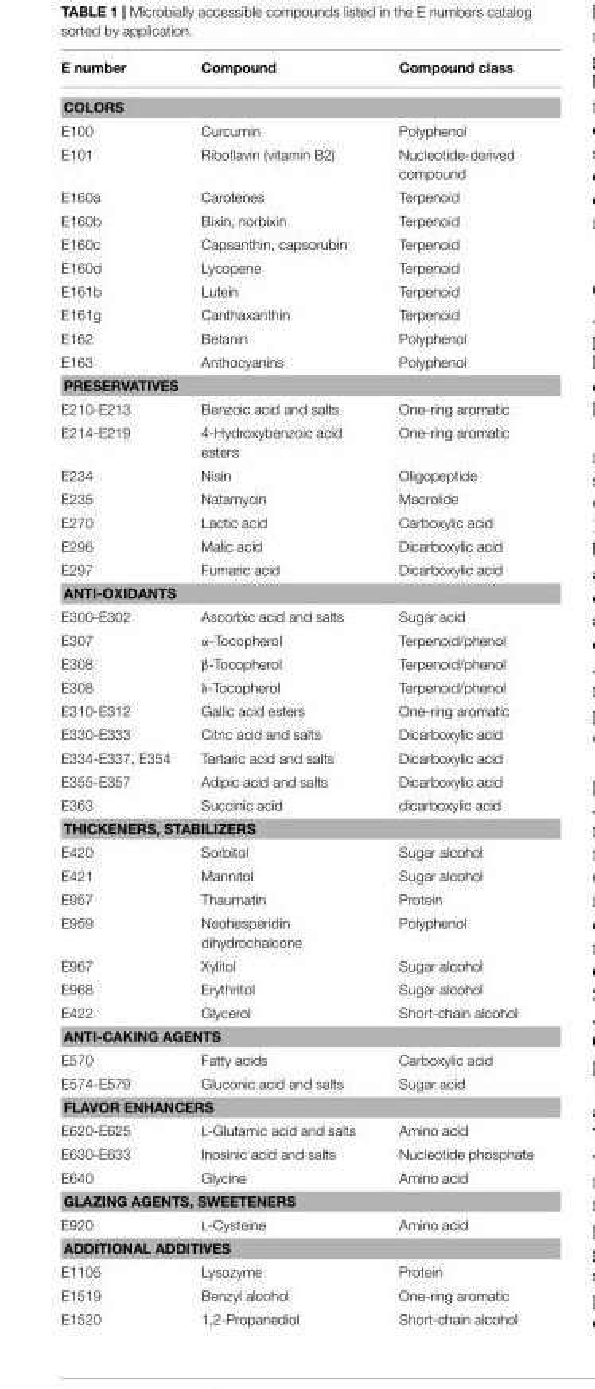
<table><thead><tr><td>E number</td><td>Compound</td><td>Compound class</td></tr></thead><tbody><tr><td colspan="3">COLORS</td></tr><tr><td>E100</td><td>Curcumin</td><td>Polyphenol</td></tr><tr><td>E101</td><td>Riboflavin (vitamin B2)</td><td>Nucleotide-derived compound</td></tr><tr><td>E160a</td><td>Carotenes</td><td>Terpenoid</td></tr><tr><td>E160b</td><td>Bixin, norbixin</td><td>Terpenoid</td></tr><tr><td>E160c</td><td>Capsanthin, capsorubin</td><td>Terpenoid</td></tr><tr><td>E160d</td><td>Lycopene</td><td>Terpenoid</td></tr><tr><td>E161b</td><td>Lutein</td><td>Terpenoid</td></tr><tr><td>E161g</td><td>Canthaxanthin</td><td>Terpenoid</td></tr><tr><td>E162</td><td>Betanin</td><td>Polyphenol</td></tr><tr><td>E163</td><td>Anthocyanins</td><td>Polyphenol</td></tr><tr><td colspan="3">PRESERVATIVES</td></tr><tr><td>E210-E213</td><td>Benzoic acid and salts</td><td>One-ring aromatic</td></tr><tr><td>E214-E219</td><td>4-Hydroxybenzoic acid esters</td><td>One-ring aromatic</td></tr><tr><td>E234</td><td>Nisin</td><td>Oligopeptide</td></tr><tr><td>E235</td><td>Natamycin</td><td>Macrolide</td></tr><tr><td>E270</td><td>Lactic acid</td><td>Carboxylic acid</td></tr><tr><td>E296</td><td>Malic acid</td><td>Dicarboxylic acid</td></tr><tr><td>E297</td><td>Fumaric acid</td><td>Dicarboxylic acid</td></tr><tr><td colspan="3">ANTI-OXIDANTS</td></tr><tr><td>E300-E302</td><td>Ascorbic acid and salts</td><td>Sugar acid</td></tr><tr><td>E307</td><td>α-Tocopherol</td><td>Terpenoid/phenol</td></tr><tr><td>E308</td><td>β-Tocopherol</td><td>Terpenoid/phenol</td></tr><tr><td>E308</td><td>δ-Tocopherol</td><td>Terpenoid/phenol</td></tr><tr><td>E310-E312</td><td>Gallic acid esters</td><td>One-ring aromatic</td></tr><tr><td>E330-E333</td><td>Citric acid and salts</td><td>Dicarboxylic acid</td></tr><tr><td>E334-E337, E354</td><td>Tartaric acid and salts</td><td>Dicarboxylic acid</td></tr><tr><td>E355-E357</td><td>Adipic acid and salts</td><td>Dicarboxylic acid</td></tr><tr><td>E363</td><td>Succinic acid</td><td>dicarboxylic acid</td></tr><tr><td colspan="3">THICKENERS, STABILIZERS</td></tr><tr><td>E420</td><td>Sorbitol</td><td>Sugar alcohol</td></tr><tr><td>E421</td><td>Mannitol</td><td>Sugar alcohol</td></tr><tr><td>E957</td><td>Thaumatin</td><td>Protein</td></tr><tr><td>E959</td><td>Neohesperidin dihydrochalcone</td><td>Polyphenol</td></tr><tr><td>E967</td><td>Xylitol</td><td>Sugar alcohol</td></tr><tr><td>E968</td><td>Erythritol</td><td>Sugar alcohol</td></tr><tr><td>E422</td><td>Glycerol</td><td>Short-chain alcohol</td></tr><tr><td colspan="3">ANTI-CAKING AGENTS</td></tr><tr><td>E570</td><td>Fatty acids</td><td>Carboxylic acid</td></tr><tr><td>E574-E579</td><td>Gluconic acid and salts</td><td>Sugar acid</td></tr><tr><td colspan="3">FLAVOR ENHANCERS</td></tr><tr><td>E620-E625</td><td>L-Glutamic acid and salts</td><td>Amino acid</td></tr><tr><td>E630-E633</td><td>Inosinic acid and salts</td><td>Nucleotide phosphate</td></tr><tr><td>E640</td><td>Glycine</td><td>Amino acid</td></tr><tr><td colspan="3">GLAZING AGENTS, SWEETENERS</td></tr><tr><td>E920</td><td>L-Cysteine</td><td>Amino acid</td></tr><tr><td colspan="3">ADDITIONAL ADDITIVES</td></tr><tr><td>E1105</td><td>Lysozyme</td><td>Protein</td></tr><tr><td>E1519</td><td>Benzyl alcohol</td><td>One-ring aromatic</td></tr><tr><td>E1520</td><td>1,2-Propanediol</td><td>Short-chain alcohol</td></tr></tbody></table>